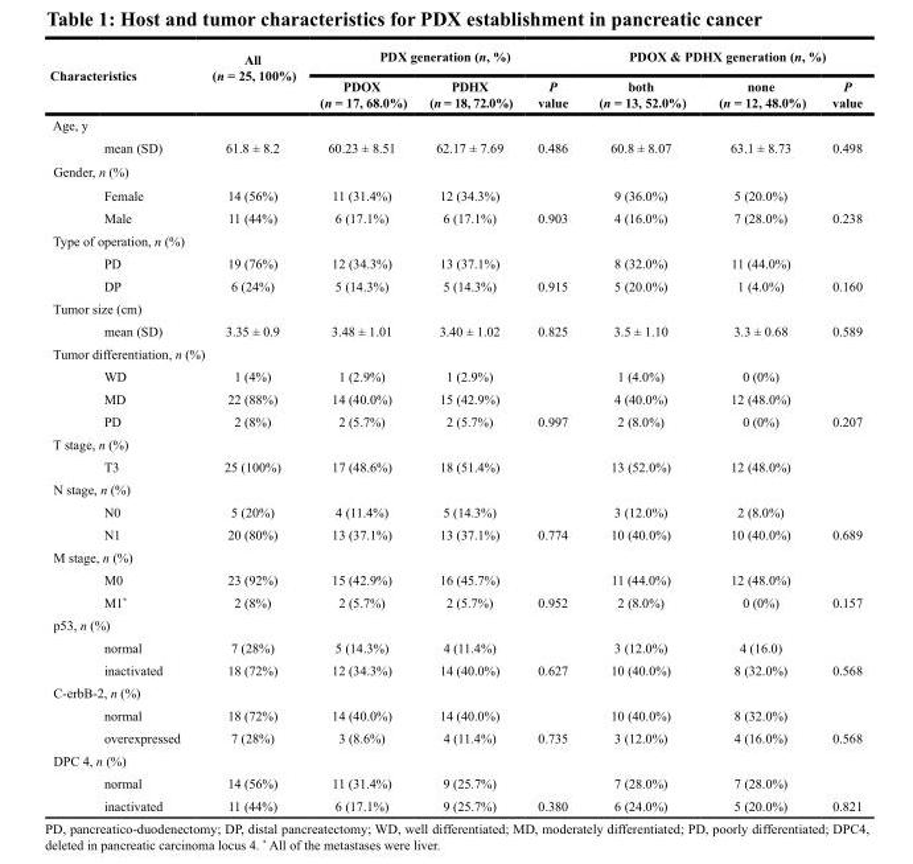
<table><thead><tr><td rowspan="2">Characteristics</td><td rowspan="2">All (n = 25, 100%)</td><td colspan="3">PDX generation (n, %)</td><td colspan="3">PDOX &amp; PDHX generation (n, %)</td></tr><tr><td>PDOX (n = 17, 68.0%)</td><td>PDHX (n = 18, 72.0%)</td><td>P value</td><td>both (n = 13, 52.0%)</td><td>none (n = 12, 48.0%)</td><td>P value</td></tr></thead><tbody><tr><td colspan="8">Age, y</td></tr><tr><td>mean (SD)</td><td>61.8 ± 8.2</td><td>60.23 ± 8.51</td><td>62.17 ± 7.69</td><td>0.486</td><td>60.8 ± 8.07</td><td>63.1 ± 8.73</td><td>0.498</td></tr><tr><td colspan="8">Gender, n (%)</td></tr><tr><td>Female</td><td>14 (56%)</td><td>11 (31.4%)</td><td>12 (34.3%)</td><td></td><td>9 (36.0%)</td><td>5 (20.0%)</td><td></td></tr><tr><td>Male</td><td>11 (44%)</td><td>6 (17.1%)</td><td>6 (17.1%)</td><td>0.903</td><td>4 (16.0%)</td><td>7 (28.0%)</td><td>0.238</td></tr><tr><td colspan="8">Type of operation, n (%)</td></tr><tr><td>PD</td><td>19 (76%)</td><td>12 (34.3%)</td><td>13 (37.1%)</td><td></td><td>8 (32.0%)</td><td>11 (44.0%)</td><td></td></tr><tr><td>DP</td><td>6 (24%)</td><td>5 (14.3%)</td><td>5 (14.3%)</td><td>0.915</td><td>5 (20.0%)</td><td>1 (4.0%)</td><td>0.160</td></tr><tr><td colspan="8">Tumor size (cm)</td></tr><tr><td>mean (SD)</td><td>3.35 ± 0.9</td><td>3.48 ± 1.01</td><td>3.40 ± 1.02</td><td>0.825</td><td>3.5 ± 1.10</td><td>3.3 ± 0.68</td><td>0.589</td></tr><tr><td colspan="8">Tumor differentiation, n (%)</td></tr><tr><td>WD</td><td>1 (4%)</td><td>1 (2.9%)</td><td>1 (2.9%)</td><td></td><td>1 (4.0%)</td><td>0 (0%)</td><td></td></tr><tr><td>MD</td><td>22 (88%)</td><td>14 (40.0%)</td><td>15 (42.9%)</td><td></td><td>4 (40.0%)</td><td>12 (48.0%)</td><td></td></tr><tr><td>PD</td><td>2 (8%)</td><td>2 (5.7%)</td><td>2 (5.7%)</td><td>0.997</td><td>2 (8.0%)</td><td>0 (0%)</td><td>0.207</td></tr><tr><td colspan="8">T stage, n (%)</td></tr><tr><td>T3</td><td>25 (100%)</td><td>17 (48.6%)</td><td>18 (51.4%)</td><td></td><td>13 (52.0%)</td><td>12 (48.0%)</td><td></td></tr><tr><td colspan="8">N stage, n (%)</td></tr><tr><td>N0</td><td>5 (20%)</td><td>4 (11.4%)</td><td>5 (14.3%)</td><td></td><td>3 (12.0%)</td><td>2 (8.0%)</td><td></td></tr><tr><td>N1</td><td>20 (80%)</td><td>13 (37.1%)</td><td>13 (37.1%)</td><td>0.774</td><td>10 (40.0%)</td><td>10 (40.0%)</td><td>0.689</td></tr><tr><td colspan="8">M stage, n (%)</td></tr><tr><td>M0</td><td>23 (92%)</td><td>15 (42.9%)</td><td>16 (45.7%)</td><td></td><td>11 (44.0%)</td><td>12 (48.0%)</td><td></td></tr><tr><td>M1*</td><td>2 (8%)</td><td>2 (5.7%)</td><td>2 (5.7%)</td><td>0.952</td><td>2 (8.0%)</td><td>0 (0%)</td><td>0.157</td></tr><tr><td colspan="8">p53, n (%)</td></tr><tr><td>normal</td><td>7 (28%)</td><td>5 (14.3%)</td><td>4 (11.4%)</td><td></td><td>3 (12.0%)</td><td>4 (16.0)</td><td></td></tr><tr><td>inactivated</td><td>18 (72%)</td><td>12 (34.3%)</td><td>14 (40.0%)</td><td>0.627</td><td>10 (40.0%)</td><td>8 (32.0%)</td><td>0.568</td></tr><tr><td colspan="8">C-erbB-2, n (%)</td></tr><tr><td>normal</td><td>18 (72%)</td><td>14 (40.0%)</td><td>14 (40.0%)</td><td></td><td>10 (40.0%)</td><td>8 (32.0%)</td><td></td></tr><tr><td>overexpressed</td><td>7 (28%)</td><td>3 (8.6%)</td><td>4 (11.4%)</td><td>0.735</td><td>3 (12.0%)</td><td>4 (16.0%)</td><td>0.568</td></tr><tr><td colspan="8">DPC 4, n (%)</td></tr><tr><td>normal</td><td>14 (56%)</td><td>11 (31.4%)</td><td>9 (25.7%)</td><td></td><td>7 (28.0%)</td><td>7 (28.0%)</td><td></td></tr><tr><td>inactivated</td><td>11 (44%)</td><td>6 (17.1%)</td><td>9 (25.7%)</td><td>0.380</td><td>6 (24.0%)</td><td>5 (20.0%)</td><td>0.821</td></tr></tbody></table>